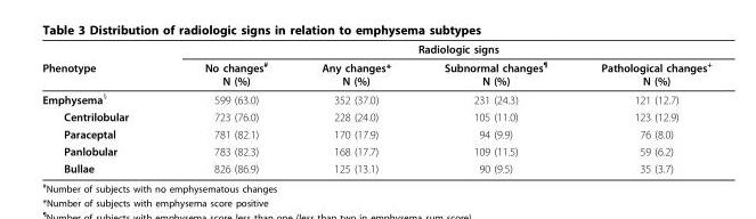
<table><thead><tr><td rowspan="2">Phenotype</td><td colspan="4">Radiologic signs</td></tr><tr><td>No changes<sup>#</sup> N (%)</td><td>Any changes* N (%)</td><td>Subnormal changes<sup>¶</sup> N (%)</td><td>Pathological changes<sup>+</sup> N (%)</td></tr></thead><tbody><tr><td>Emphysema<sup>§</sup></td><td>599 (63.0)</td><td>352 (37.0)</td><td>231 (24.3)</td><td>121 (12.7)</td></tr><tr><td>Centrilobular</td><td>723 (76.0)</td><td>228 (24.0)</td><td>105 (11.0)</td><td>123 (12.9)</td></tr><tr><td>Paraceptal</td><td>781 (82.1)</td><td>170 (17.9)</td><td>94 (9.9)</td><td>76 (8.0)</td></tr><tr><td>Panlobular</td><td>783 (82.3)</td><td>168 (17.7)</td><td>109 (11.5)</td><td>59 (6.2)</td></tr><tr><td>Bullae</td><td>826 (86.9)</td><td>125 (13.1)</td><td>90 (9.5)</td><td>35 (3.7)</td></tr></tbody></table>